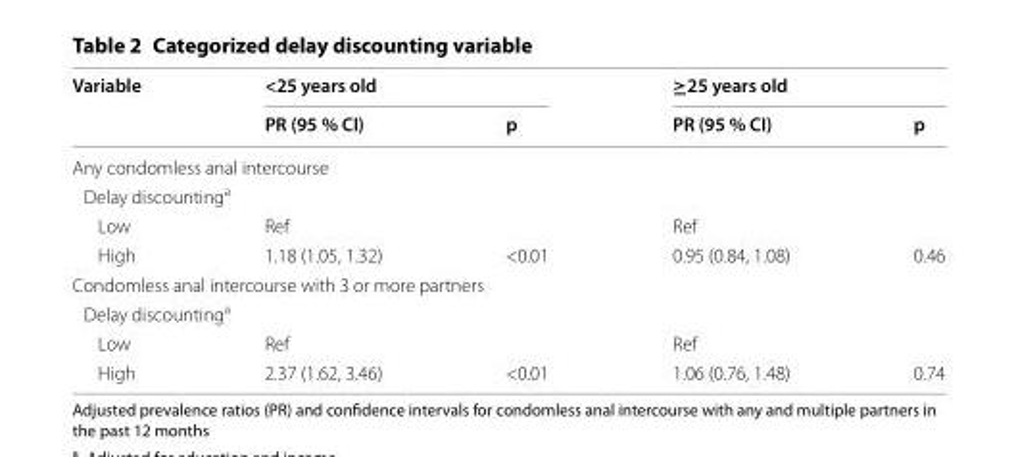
<table><thead><tr><td rowspan="2">Variable</td><td colspan="2">&lt;25 years old</td><td colspan="2">≥25 years old</td></tr><tr><td>PR (95 % CI)</td><td>p</td><td>PR (95 % CI)</td><td>p</td></tr></thead><tbody><tr><td colspan="5">Any condomless anal intercourse</td></tr><tr><td colspan="5">Delay discounting<sup>a</sup></td></tr><tr><td>Low</td><td>Ref</td><td></td><td>Ref</td><td></td></tr><tr><td>High</td><td>1.18 (1.05, 1.32)</td><td>&lt;0.01</td><td>0.95 (0.84, 1.08)</td><td>0.46</td></tr><tr><td colspan="5">Condomless anal intercourse with 3 or more partners</td></tr><tr><td colspan="5">Delay discounting<sup>a</sup></td></tr><tr><td>Low</td><td>Ref</td><td></td><td>Ref</td><td></td></tr><tr><td>High</td><td>2.37 (1.62, 3.46)</td><td>&lt;0.01</td><td>1.06 (0.76, 1.48)</td><td>0.74</td></tr></tbody></table>